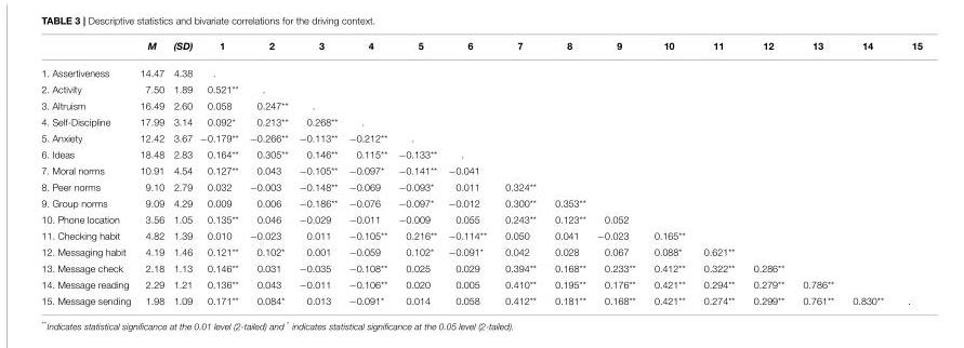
<table><thead><tr><td></td><td>M</td><td>(SD)</td><td>1</td><td>2</td><td>3</td><td>4</td><td>5</td><td>6</td><td>7</td><td>8</td><td>9</td><td>10</td><td>11</td><td>12</td><td>13</td><td>14</td><td>15</td></tr></thead><tbody><tr><td>1. Assertiveness</td><td>14.47</td><td>4.38</td><td>.</td><td></td><td></td><td></td><td></td><td></td><td></td><td></td><td></td><td></td><td></td><td></td><td></td><td></td><td></td></tr><tr><td>2. Activity</td><td>7.50</td><td>1.89</td><td>0.521**</td><td>.</td><td></td><td></td><td></td><td></td><td></td><td></td><td></td><td></td><td></td><td></td><td></td><td></td><td></td></tr><tr><td>3. Altruism</td><td>16.49</td><td>2.60</td><td>0.058</td><td>0.247**</td><td>.</td><td></td><td></td><td></td><td></td><td></td><td></td><td></td><td></td><td></td><td></td><td></td><td></td></tr><tr><td>4. Self-Discipline</td><td>17.99</td><td>3.14</td><td>0.092*</td><td>0.213**</td><td>0.268**</td><td>.</td><td></td><td></td><td></td><td></td><td></td><td></td><td></td><td></td><td></td><td></td><td></td></tr><tr><td>5. Anxiety</td><td>12.42</td><td>3.67</td><td>−0.179**</td><td>−0.266**</td><td>−0.113**</td><td>−0.212**</td><td>.</td><td></td><td></td><td></td><td></td><td></td><td></td><td></td><td></td><td></td><td></td></tr><tr><td>6. Ideas</td><td>18.48</td><td>2.83</td><td>0.164**</td><td>0.305**</td><td>0.146**</td><td>0.115**</td><td>−0.133**</td><td>.</td><td></td><td></td><td></td><td></td><td></td><td></td><td></td><td></td><td></td></tr><tr><td>7. Moral norms</td><td>10.91</td><td>4.54</td><td>0.127**</td><td>0.043</td><td>−0.105**</td><td>−0.097*</td><td>−0.141**</td><td>−0.041</td><td></td><td></td><td></td><td></td><td></td><td></td><td></td><td></td><td></td></tr><tr><td>8. Peer norms</td><td>9.10</td><td>2.79</td><td>0.032</td><td>−0.003</td><td>−0.148**</td><td>−0.069</td><td>−0.093*</td><td>0.011</td><td>0.324**</td><td></td><td></td><td></td><td></td><td></td><td></td><td></td><td></td></tr><tr><td>9. Group norms</td><td>9.09</td><td>4.29</td><td>0.009</td><td>0.006</td><td>−0.186**</td><td>−0.076</td><td>−0.097*</td><td>−0.012</td><td>0.300**</td><td>0.353**</td><td></td><td></td><td></td><td></td><td></td><td></td><td></td></tr><tr><td>10. Phone location</td><td>3.56</td><td>1.05</td><td>0.135**</td><td>0.046</td><td>−0.029</td><td>−0.011</td><td>−0.009</td><td>0.055</td><td>0.243**</td><td>0.123**</td><td>0.052</td><td></td><td></td><td></td><td></td><td></td><td></td></tr><tr><td>11. Checking habit</td><td>4.82</td><td>1.39</td><td>0.010</td><td>−0.023</td><td>0.011</td><td>−0.105**</td><td>0.216**</td><td>−0.114**</td><td>0.050</td><td>0.041</td><td>−0.023</td><td>0.165**</td><td></td><td></td><td></td><td></td><td></td></tr><tr><td>12. Messaging habit</td><td>4.19</td><td>1.46</td><td>0.121**</td><td>0.102*</td><td>0.001</td><td>−0.059</td><td>0.102*</td><td>−0.091*</td><td>0.042</td><td>0.028</td><td>0.067</td><td>0.088*</td><td>0.621**</td><td></td><td></td><td></td><td></td></tr><tr><td>13. Message check</td><td>2.18</td><td>1.13</td><td>0.146**</td><td>0.031</td><td>−0.035</td><td>−0.108**</td><td>0.025</td><td>0.029</td><td>0.394**</td><td>0.168**</td><td>0.233**</td><td>0.412**</td><td>0.322**</td><td>0.286**</td><td></td><td></td><td></td></tr><tr><td>14. Message reading</td><td>2.29</td><td>1.21</td><td>0.136**</td><td>0.043</td><td>−0.011</td><td>−0.106**</td><td>0.020</td><td>0.005</td><td>0.410**</td><td>0.195**</td><td>0.176**</td><td>0.421**</td><td>0.294**</td><td>0.279**</td><td>0.786**</td><td></td><td></td></tr><tr><td>15. Message sending</td><td>1.98</td><td>1.09</td><td>0.171**</td><td>0.084*</td><td>0.013</td><td>−0.091*</td><td>0.014</td><td>0.058</td><td>0.412**</td><td>0.181**</td><td>0.168**</td><td>0.421**</td><td>0.274**</td><td>0.299**</td><td>0.761**</td><td>0.830**</td><td>.</td></tr></tbody></table>